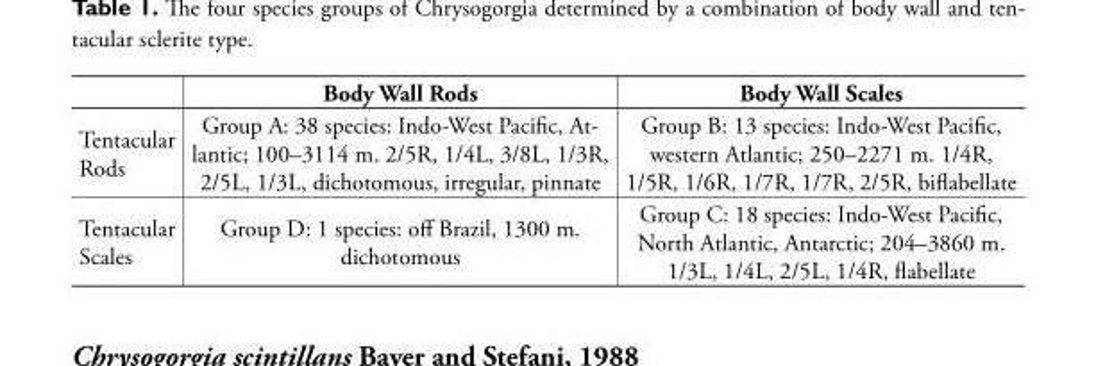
<table><thead><tr><td></td><td>Body Wall Rods</td><td>Body Wall Scales</td></tr></thead><tbody><tr><td>Tentacular Rods</td><td>Group A: 38 species: Indo-West Pacific, At- lantic; 100–3114 m. 2/5R, 1/4L, 3/8L, 1/3R, 2/5L, 1/3L, dichotomous, irregular, pinnate</td><td>Group B: 13 species: Indo-West Pacific, western Atlantic; 250–2271 m. 1/4R, 1/5R, 1/6R, 1/7R, 1/7R, 2/5R, biflabellate</td></tr><tr><td>Tentacular Scales</td><td>Group D: 1 species: off Brazil, 1300 m. dichotomous</td><td>Group C: 18 species: Indo-West Pacific, North Atlantic, Antarctic; 204–3860 m. 1/3L, 1/4L, 2/5L, 1/4R, flabellate</td></tr></tbody></table>